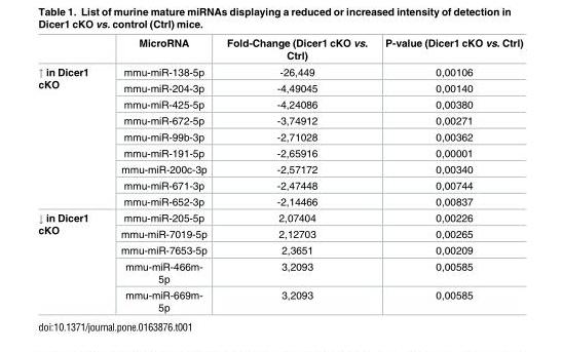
<table><thead><tr><td></td><td>MicroRNA</td><td>Fold-Change (Dicer1 cKO vs. Ctrl)</td><td>P-value (Dicer1 cKO vs. Ctrl)</td></tr></thead><tbody><tr><td rowspan="9">↑ in Dicer1 cKO</td><td>mmu-miR-138-5p</td><td>-26,449</td><td>0,00106</td></tr><tr><td>mmu-miR-204-3p</td><td>-4,49045</td><td>0,00140</td></tr><tr><td>mmu-miR-425-5p</td><td>-4,24086</td><td>0,00380</td></tr><tr><td>mmu-miR-672-5p</td><td>-3,74912</td><td>0,00271</td></tr><tr><td>mmu-miR-99b-3p</td><td>-2,71028</td><td>0,00362</td></tr><tr><td>mmu-miR-191-5p</td><td>-2,65916</td><td>0,00001</td></tr><tr><td>mmu-miR-200c-3p</td><td>-2,57172</td><td>0,00340</td></tr><tr><td>mmu-miR-671-3p</td><td>-2,47448</td><td>0,00744</td></tr><tr><td>mmu-miR-652-3p</td><td>-2,14466</td><td>0,00837</td></tr><tr><td rowspan="5">↓ in Dicer1 cKO</td><td>mmu-miR-205-5p</td><td>2,07404</td><td>0,00226</td></tr><tr><td>mmu-miR-7019-5p</td><td>2,12703</td><td>0,00265</td></tr><tr><td>mmu-miR-7653-5p</td><td>2,3651</td><td>0,00209</td></tr><tr><td>mmu-miR-466m- 5p</td><td>3,2093</td><td>0,00585</td></tr><tr><td>mmu-miR-669m- 5p</td><td>3,2093</td><td>0,00585</td></tr></tbody></table>